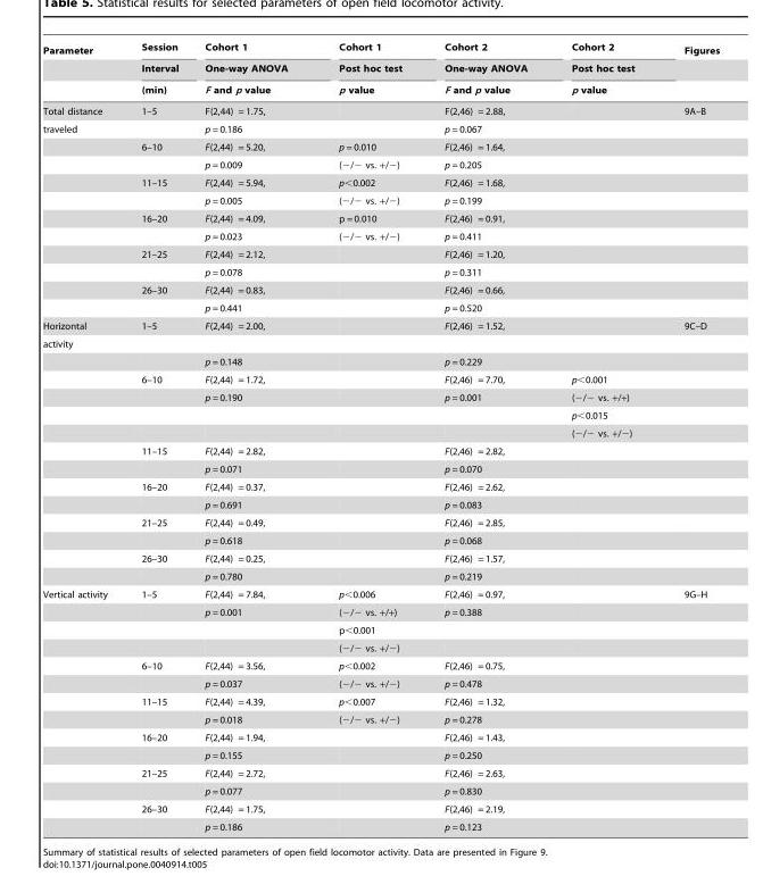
<table><thead><tr><td rowspan="3">Parameter</td><td rowspan="3">Session Interval (min)</td><td rowspan="3">Cohort 1 One-way ANOVA F and p value</td><td rowspan="3">Cohort 1 Post hoc test p value</td><td rowspan="3">Cohort 2 One-way ANOVA F and p value</td><td rowspan="3">Cohort 2 Post hoc test p value</td><td rowspan="3">Figures</td></tr><tr></tr><tr></tr></thead><tbody><tr><td>Total distance</td><td>1–5</td><td>F(2,44) = 1.75,</td><td></td><td>F(2,46) = 2.88,</td><td></td><td>9A–B</td></tr><tr><td rowspan="11">traveled</td><td></td><td>p = 0.186</td><td></td><td>p = 0.067</td><td></td><td></td></tr><tr><td>6–10</td><td>F(2,44) = 5.20,</td><td>p = 0.010</td><td>F(2,46) = 1.64,</td><td></td><td></td></tr><tr><td></td><td>p = 0.009</td><td>(−/− vs. +/−)</td><td>p = 0.205</td><td></td><td></td></tr><tr><td>11–15</td><td>F(2,44) = 5.94,</td><td>p&lt;0.002</td><td>F(2,46) = 1.68,</td><td></td><td></td></tr><tr><td></td><td>p = 0.005</td><td>(−/− vs. +/−)</td><td>p = 0.199</td><td></td><td></td></tr><tr><td>16–20</td><td>F(2,44) = 4.09,</td><td>p = 0.010</td><td>F(2,46) = 0.91,</td><td></td><td></td></tr><tr><td></td><td>p = 0.023</td><td>(−/− vs. +/−)</td><td>p = 0.411</td><td></td><td></td></tr><tr><td>21–25</td><td>F(2,44) = 2.12,</td><td></td><td>F(2,46) = 1.20,</td><td></td><td></td></tr><tr><td></td><td>p = 0.078</td><td></td><td>p = 0.311</td><td></td><td></td></tr><tr><td>26–30</td><td>F(2,44) = 0.83,</td><td></td><td>F(2,46) = 0.66,</td><td></td><td></td></tr><tr><td></td><td>p = 0.441</td><td></td><td>p = 0.520</td><td></td><td></td></tr><tr><td>Horizontal</td><td>1–5</td><td>F(2,44) = 2.00,</td><td></td><td>F(2,46) = 1.52,</td><td></td><td>9C–D</td></tr><tr><td colspan="7">activity</td></tr><tr><td></td><td></td><td>p = 0.148</td><td></td><td>p = 0.229</td><td></td><td></td></tr><tr><td></td><td>6–10</td><td>F(2,44) = 1.72,</td><td></td><td>F(2,46) = 7.70,</td><td>p&lt;0.001</td><td></td></tr><tr><td></td><td></td><td>p = 0.190</td><td></td><td>p = 0.001</td><td>(−/− vs. +/+)</td><td></td></tr><tr><td></td><td></td><td></td><td></td><td></td><td>p&lt;0.015</td><td></td></tr><tr><td></td><td></td><td></td><td></td><td></td><td>(−/− vs. +/−)</td><td></td></tr><tr><td></td><td>11–15</td><td>F(2,44) = 2.82,</td><td></td><td>F(2,46) = 2.82,</td><td></td><td></td></tr><tr><td></td><td></td><td>p = 0.071</td><td></td><td>p = 0.070</td><td></td><td></td></tr><tr><td></td><td>16–20</td><td>F(2,44) = 0.37,</td><td></td><td>F(2,46) = 2.62,</td><td></td><td></td></tr><tr><td></td><td></td><td>p = 0.691</td><td></td><td>p = 0.083</td><td></td><td></td></tr><tr><td></td><td>21–25</td><td>F(2,44) = 0.49,</td><td></td><td>F(2,46) = 2.85,</td><td></td><td></td></tr><tr><td></td><td></td><td>p = 0.618</td><td></td><td>p = 0.068</td><td></td><td></td></tr><tr><td></td><td>26–30</td><td>F(2,44) = 0.25,</td><td></td><td>F(2,46) = 1.57,</td><td></td><td></td></tr><tr><td></td><td></td><td>p = 0.780</td><td></td><td>p = 0.219</td><td></td><td></td></tr><tr><td rowspan="14">Vertical activity</td><td>1–5</td><td>F(2,44) = 7.84,</td><td>p&lt;0.006</td><td>F(2,46) = 0.97,</td><td></td><td>9G–H</td></tr><tr><td></td><td>p = 0.001</td><td>(−/− vs. +/+)</td><td>p = 0.388</td><td></td><td></td></tr><tr><td></td><td></td><td>p&lt;0.001</td><td></td><td></td><td></td></tr><tr><td></td><td></td><td>(−/− vs. +/−)</td><td></td><td></td><td></td></tr><tr><td>6–10</td><td>F(2,44) = 3.56,</td><td>p&lt;0.002</td><td>F(2,46) = 0.75,</td><td></td><td></td></tr><tr><td></td><td>p = 0.037</td><td>(−/− vs. +/−)</td><td>p = 0.478</td><td></td><td></td></tr><tr><td>11–15</td><td>F(2,44) = 4.39,</td><td>p&lt;0.007</td><td>F(2,46) = 1.32,</td><td></td><td></td></tr><tr><td></td><td>p = 0.018</td><td>(−/− vs. +/−)</td><td>p = 0.278</td><td></td><td></td></tr><tr><td>16–20</td><td>F(2,44) = 1.94,</td><td></td><td>F(2,46) = 1.43,</td><td></td><td></td></tr><tr><td></td><td>p = 0.155</td><td></td><td>p = 0.250</td><td></td><td></td></tr><tr><td>21–25</td><td>F(2,44) = 2.72,</td><td></td><td>F(2,46) = 2.63,</td><td></td><td></td></tr><tr><td></td><td>p = 0.077</td><td></td><td>p = 0.830</td><td></td><td></td></tr><tr><td>26–30</td><td>F(2,44) = 1.75,</td><td></td><td>F(2,46) = 2.19,</td><td></td><td></td></tr><tr><td></td><td>p = 0.186</td><td></td><td>p = 0.123</td><td></td><td></td></tr></tbody></table>